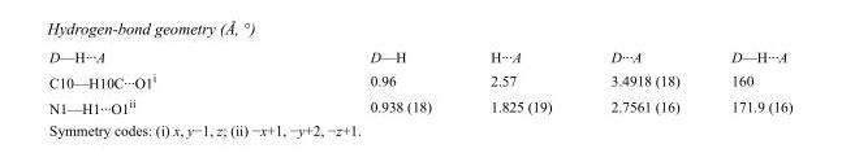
<table><tbody><tr><td>D—H···A</td><td>D—H</td><td>H···A</td><td>D···A</td><td>D—H···A</td></tr><tr><td>C10—H10C···O1<sup>i</sup></td><td>0.96</td><td>2.57</td><td>3.4918 (18)</td><td>160</td></tr><tr><td>N1—H1···O1<sup>ii</sup></td><td>0.938 (18)</td><td>1.825 (19)</td><td>2.7561 (16)</td><td>171.9 (16)</td></tr></tbody></table>